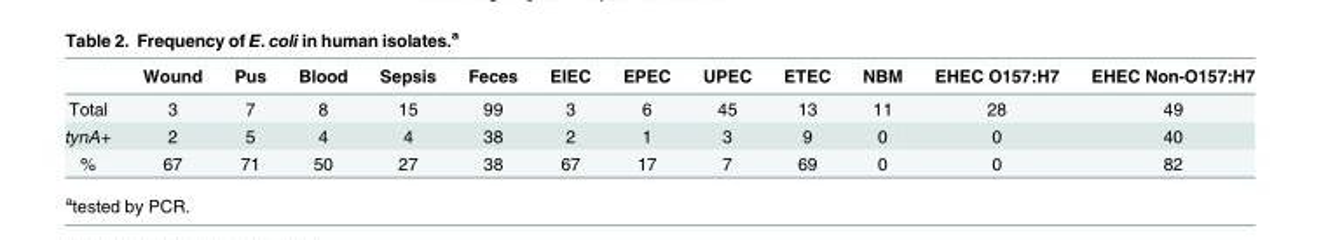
<table><thead><tr><td></td><td>Wound</td><td>Pus</td><td>Blood</td><td>Sepsis</td><td>Feces</td><td>EIEC</td><td>EPEC</td><td>UPEC</td><td>ETEC</td><td>NBM</td><td>EHEC O157:H7</td><td>EHEC Non-O157:H7</td></tr></thead><tbody><tr><td>Total</td><td>3</td><td>7</td><td>8</td><td>15</td><td>99</td><td>3</td><td>6</td><td>45</td><td>13</td><td>11</td><td>28</td><td>49</td></tr><tr><td>tynA+</td><td>2</td><td>5</td><td>4</td><td>4</td><td>38</td><td>2</td><td>1</td><td>3</td><td>9</td><td>0</td><td>0</td><td>40</td></tr><tr><td>%</td><td>67</td><td>71</td><td>50</td><td>27</td><td>38</td><td>67</td><td>17</td><td>7</td><td>69</td><td>0</td><td>0</td><td>82</td></tr></tbody></table>